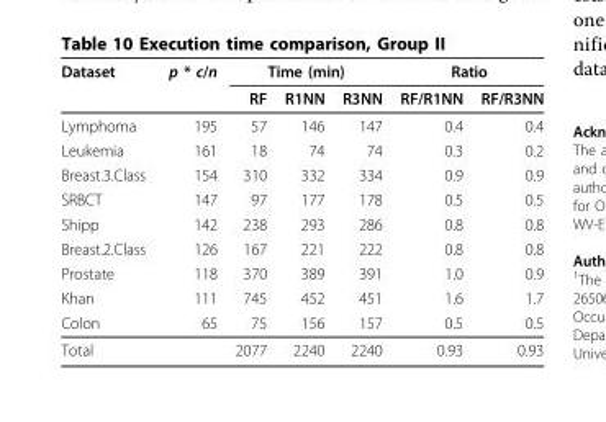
<table><thead><tr><td rowspan="2">Dataset</td><td rowspan="2">p * c/n</td><td colspan="3">Time (min)</td><td colspan="2">Ratio</td></tr><tr><td>RF</td><td>R1NN</td><td>R3NN</td><td>RF/R1NN</td><td>RF/R3NN</td></tr></thead><tbody><tr><td>Lymphoma</td><td>195</td><td>57</td><td>146</td><td>147</td><td>0.4</td><td>0.4</td></tr><tr><td>Leukemia</td><td>161</td><td>18</td><td>74</td><td>74</td><td>0.3</td><td>0.2</td></tr><tr><td>Breast.3.Class</td><td>154</td><td>310</td><td>332</td><td>334</td><td>0.9</td><td>0.9</td></tr><tr><td>SRBCT</td><td>147</td><td>97</td><td>177</td><td>178</td><td>0.5</td><td>0.5</td></tr><tr><td>Shipp</td><td>142</td><td>238</td><td>293</td><td>286</td><td>0.8</td><td>0.8</td></tr><tr><td>Breast.2.Class</td><td>126</td><td>167</td><td>221</td><td>222</td><td>0.8</td><td>0.8</td></tr><tr><td>Prostate</td><td>118</td><td>370</td><td>389</td><td>391</td><td>1.0</td><td>0.9</td></tr><tr><td>Khan</td><td>111</td><td>745</td><td>452</td><td>451</td><td>1.6</td><td>1.7</td></tr><tr><td>Colon</td><td>65</td><td>75</td><td>156</td><td>157</td><td>0.5</td><td>0.5</td></tr><tr><td>Total</td><td></td><td>2077</td><td>2240</td><td>2240</td><td>0.93</td><td>0.93</td></tr></tbody></table>